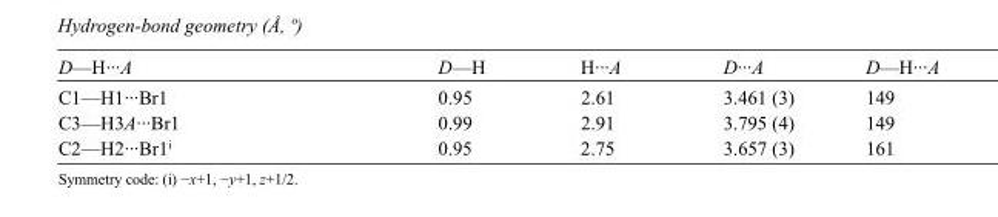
<table><tbody><tr><td>D—H···A</td><td>D—H</td><td>H···A</td><td>D···A</td><td>D—H···A</td></tr><tr><td>C1—H1···Br1</td><td>0.95</td><td>2.61</td><td>3.461 (3)</td><td>149</td></tr><tr><td>C3—H3A···Br1</td><td>0.99</td><td>2.91</td><td>3.795 (4)</td><td>149</td></tr><tr><td>C2—H2···Br1<sup>i</sup></td><td>0.95</td><td>2.75</td><td>3.657 (3)</td><td>161</td></tr></tbody></table>